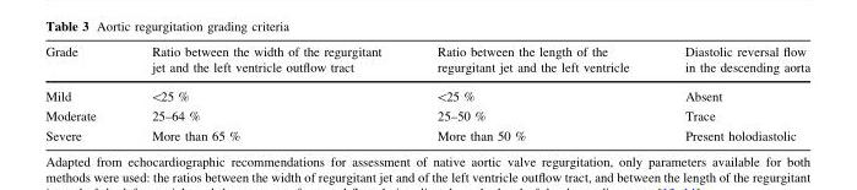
<table><thead><tr><td>Grade</td><td>Ratio between the width of the regurgitant jet and the left ventricle outflow tract</td><td>Ratio between the length of the regurgitant jet and the left ventricle</td><td>Diastolic reversal flow in the descending aorta</td></tr></thead><tbody><tr><td>Mild</td><td>&lt;25 %</td><td>&lt;25 %</td><td>Absent</td></tr><tr><td>Moderate</td><td>25–64 %</td><td>25–50 %</td><td>Trace</td></tr><tr><td>Severe</td><td>More than 65 %</td><td>More than 50 %</td><td>Present holodiastolic</td></tr></tbody></table>